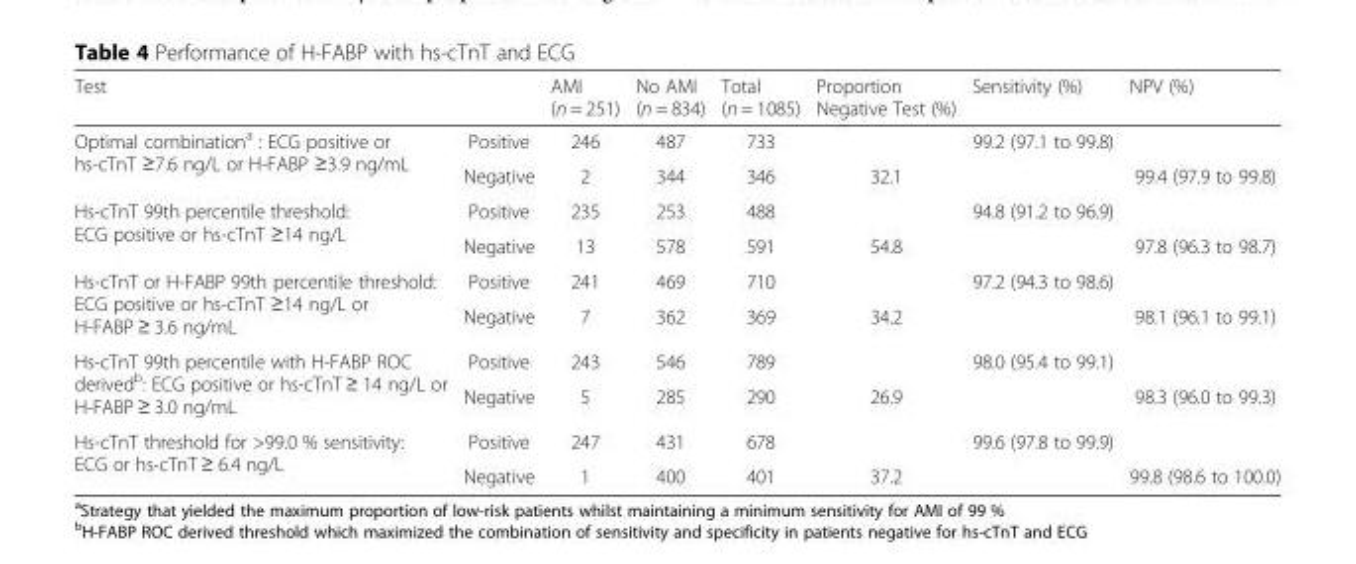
<table><thead><tr><td>Test</td><td></td><td>AMI (n = 251)</td><td>No AMI (n = 834)</td><td>Total (n = 1085)</td><td>Proportion Negative Test (%)</td><td>Sensitivity (%)</td><td>NPV (%)</td></tr></thead><tbody><tr><td rowspan="2">Optimal combination<sup>a</sup> : ECG positive or hs-cTnT ≥7.6 ng/L or H-FABP ≥3.9 ng/mL</td><td>Positive</td><td>246</td><td>487</td><td>733</td><td></td><td>99.2 (97.1 to 99.8)</td><td></td></tr><tr><td>Negative</td><td>2</td><td>344</td><td>346</td><td>32.1</td><td></td><td>99.4 (97.9 to 99.8)</td></tr><tr><td rowspan="2">Hs-cTnT 99th percentile threshold: ECG positive or hs-cTnT ≥14 ng/L</td><td>Positive</td><td>235</td><td>253</td><td>488</td><td></td><td>94.8 (91.2 to 96.9)</td><td></td></tr><tr><td>Negative</td><td>13</td><td>578</td><td>591</td><td>54.8</td><td></td><td>97.8 (96.3 to 98.7)</td></tr><tr><td rowspan="2">Hs-cTnT or H-FABP 99th percentile threshold: ECG positive or hs-cTnT ≥14 ng/L or H-FABP ≥ 3.6 ng/mL</td><td>Positive</td><td>241</td><td>469</td><td>710</td><td></td><td>97.2 (94.3 to 98.6)</td><td></td></tr><tr><td>Negative</td><td>7</td><td>362</td><td>369</td><td>34.2</td><td></td><td>98.1 (96.1 to 99.1)</td></tr><tr><td rowspan="2">Hs-cTnT 99th percentile with H-FABP ROC derived<sup>b</sup>: ECG positive or hs-cTnT ≥ 14 ng/L or H-FABP ≥ 3.0 ng/mL</td><td>Positive</td><td>243</td><td>546</td><td>789</td><td></td><td>98.0 (95.4 to 99.1)</td><td></td></tr><tr><td>Negative</td><td>5</td><td>285</td><td>290</td><td>26.9</td><td></td><td>98.3 (96.0 to 99.3)</td></tr><tr><td rowspan="2">Hs-cTnT threshold for &gt;99.0 % sensitivity: ECG or hs-cTnT ≥ 6.4 ng/L</td><td>Positive</td><td>247</td><td>431</td><td>678</td><td></td><td>99.6 (97.8 to 99.9)</td><td></td></tr><tr><td>Negative</td><td>1</td><td>400</td><td>401</td><td>37.2</td><td></td><td>99.8 (98.6 to 100.0)</td></tr></tbody></table>